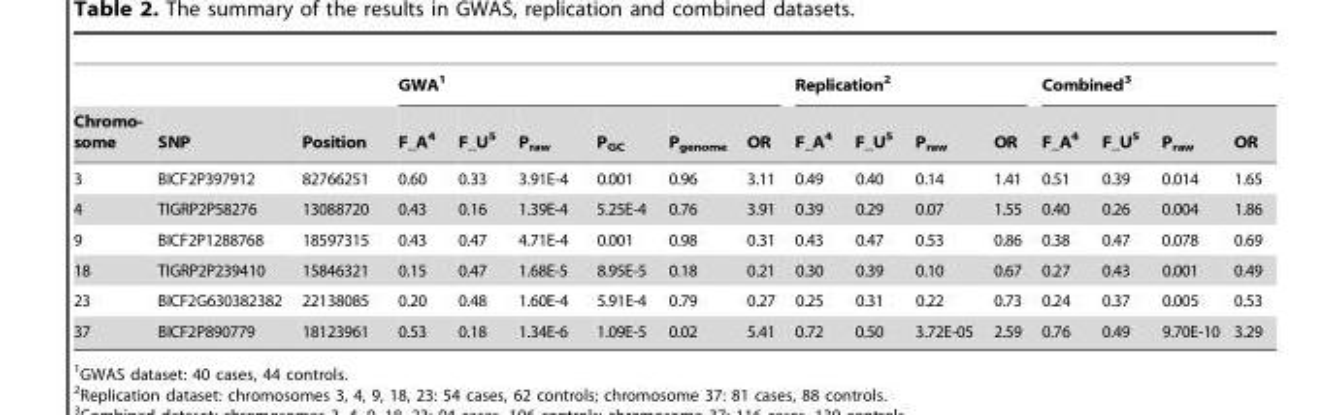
<table><thead><tr><td rowspan="2">Chromo- some</td><td rowspan="2">SNP</td><td rowspan="2">Position</td><td colspan="6">GWA<sup>1</sup></td><td colspan="4">Replication<sup>2</sup></td><td colspan="4">Combined<sup>3</sup></td></tr><tr><td>F_A<sup>4</sup></td><td>F_U<sup>5</sup></td><td>P<sub>raw</sub></td><td>P<sub>GC</sub></td><td>P<sub>genome</sub></td><td>OR</td><td>F_A<sup>4</sup></td><td>F_U<sup>5</sup></td><td>P<sub>raw</sub></td><td>OR</td><td>F_A<sup>4</sup></td><td>F_U<sup>5</sup></td><td>P<sub>raw</sub></td><td>OR</td></tr></thead><tbody><tr><td>3</td><td>BICF2P397912</td><td>82766251</td><td>0.60</td><td>0.33</td><td>3.91E-4</td><td>0.001</td><td>0.96</td><td>3.11</td><td>0.49</td><td>0.40</td><td>0.14</td><td>1.41</td><td>0.51</td><td>0.39</td><td>0.014</td><td>1.65</td></tr><tr><td>4</td><td>TIGRP2P58276</td><td>13088720</td><td>0.43</td><td>0.16</td><td>1.39E-4</td><td>5.25E-4</td><td>0.76</td><td>3.91</td><td>0.39</td><td>0.29</td><td>0.07</td><td>1.55</td><td>0.40</td><td>0.26</td><td>0.004</td><td>1.86</td></tr><tr><td>9</td><td>BICF2P1288768</td><td>18597315</td><td>0.43</td><td>0.47</td><td>4.71E-4</td><td>0.001</td><td>0.98</td><td>0.31</td><td>0.43</td><td>0.47</td><td>0.53</td><td>0.86</td><td>0.38</td><td>0.47</td><td>0.078</td><td>0.69</td></tr><tr><td>18</td><td>TIGRP2P239410</td><td>15846321</td><td>0.15</td><td>0.47</td><td>1.68E-5</td><td>8.95E-5</td><td>0.18</td><td>0.21</td><td>0.30</td><td>0.39</td><td>0.10</td><td>0.67</td><td>0.27</td><td>0.43</td><td>0.001</td><td>0.49</td></tr><tr><td>23</td><td>BICF2G630382382</td><td>22138085</td><td>0.20</td><td>0.48</td><td>1.60E-4</td><td>5.91E-4</td><td>0.79</td><td>0.27</td><td>0.25</td><td>0.31</td><td>0.22</td><td>0.73</td><td>0.24</td><td>0.37</td><td>0.005</td><td>0.53</td></tr><tr><td>37</td><td>BICF2P890779</td><td>18123961</td><td>0.53</td><td>0.18</td><td>1.34E-6</td><td>1.09E-5</td><td>0.02</td><td>5.41</td><td>0.72</td><td>0.50</td><td>3.72E-05</td><td>2.59</td><td>0.76</td><td>0.49</td><td>9.70E-10</td><td>3.29</td></tr></tbody></table>